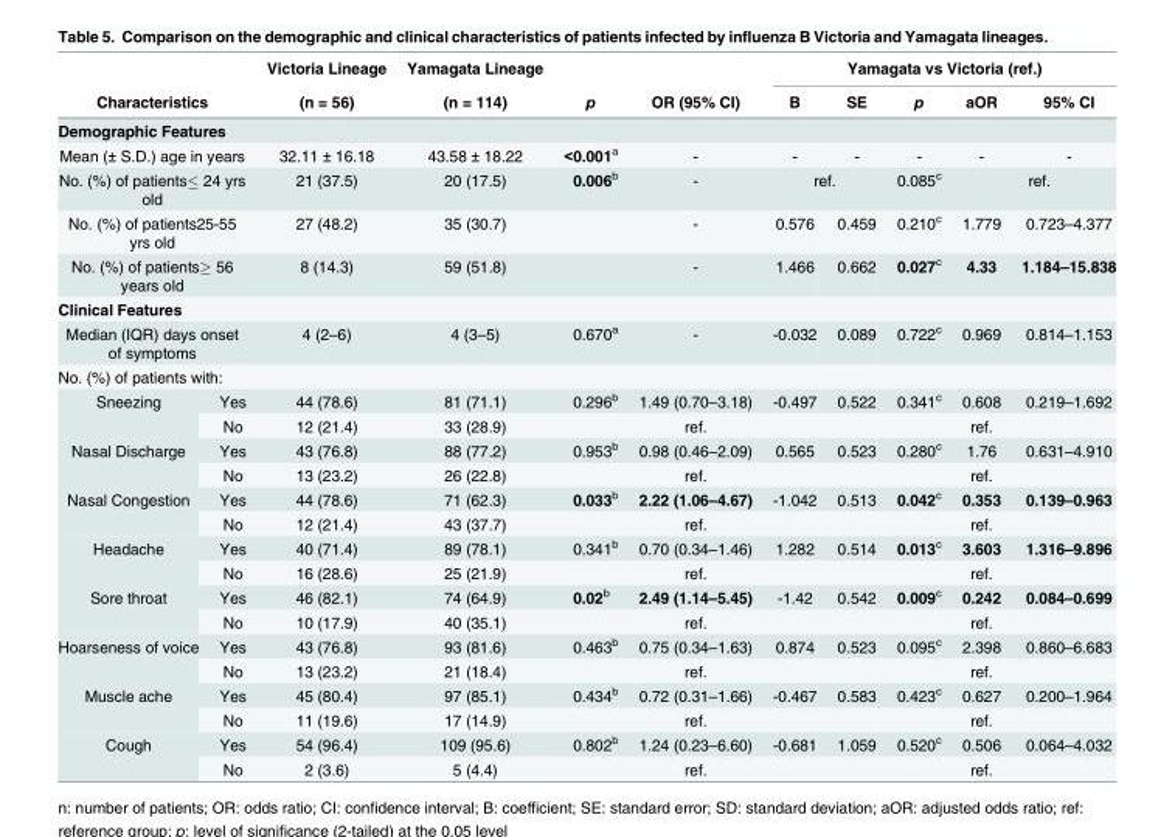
<table><thead><tr><td></td><td></td><td rowspan="2">Victoria Lineage (n = 56)</td><td rowspan="2">Yamagata Lineage (n = 114)</td><td rowspan="2">p</td><td rowspan="2">OR (95% CI)</td><td colspan="5">Yamagata vs Victoria (ref.)</td></tr><tr><td colspan="2">Characteristics</td><td>B</td><td>SE</td><td>p</td><td>aOR</td><td>95% CI</td></tr></thead><tbody><tr><td colspan="11">Demographic Features</td></tr><tr><td colspan="2">Mean (± S.D.) age in years</td><td>32.11 ± 16.18</td><td>43.58 ± 18.22</td><td>&lt;0.001<sup>a</sup></td><td>-</td><td>-</td><td>-</td><td>-</td><td>-</td><td>-</td></tr><tr><td colspan="2">No. (%) of patients≤ 24 yrs old</td><td>21 (37.5)</td><td>20 (17.5)</td><td>0.006<sup>b</sup></td><td>-</td><td colspan="2">ref.</td><td>0.085<sup>c</sup></td><td colspan="2">ref.</td></tr><tr><td colspan="2">No. (%) of patients25-55 yrs old</td><td>27 (48.2)</td><td>35 (30.7)</td><td></td><td>-</td><td>0.576</td><td>0.459</td><td>0.210<sup>c</sup></td><td>1.779</td><td>0.723–4.377</td></tr><tr><td colspan="2">No. (%) of patients≥ 56 years old</td><td>8 (14.3)</td><td>59 (51.8)</td><td></td><td>-</td><td>1.466</td><td>0.662</td><td>0.027<sup>c</sup></td><td>4.33</td><td>1.184–15.838</td></tr><tr><td colspan="11">Clinical Features</td></tr><tr><td colspan="2">Median (IQR) days onset of symptoms</td><td>4 (2–6)</td><td>4 (3–5)</td><td>0.670<sup>a</sup></td><td>-</td><td>-0.032</td><td>0.089</td><td>0.722<sup>c</sup></td><td>0.969</td><td>0.814–1.153</td></tr><tr><td colspan="11">No. (%) of patients with:</td></tr><tr><td rowspan="2">Sneezing</td><td>Yes</td><td>44 (78.6)</td><td>81 (71.1)</td><td>0.296<sup>b</sup></td><td>1.49 (0.70–3.18)</td><td>-0.497</td><td>0.522</td><td>0.341<sup>c</sup></td><td>0.608</td><td>0.219–1.692</td></tr><tr><td>No</td><td>12 (21.4)</td><td>33 (28.9)</td><td></td><td>ref.</td><td></td><td></td><td></td><td>ref.</td><td></td></tr><tr><td rowspan="2">Nasal Discharge</td><td>Yes</td><td>43 (76.8)</td><td>88 (77.2)</td><td>0.953<sup>b</sup></td><td>0.98 (0.46–2.09)</td><td>0.565</td><td>0.523</td><td>0.280<sup>c</sup></td><td>1.76</td><td>0.631–4.910</td></tr><tr><td>No</td><td>13 (23.2)</td><td>26 (22.8)</td><td></td><td>ref.</td><td></td><td></td><td></td><td>ref.</td><td></td></tr><tr><td rowspan="2">Nasal Congestion</td><td>Yes</td><td>44 (78.6)</td><td>71 (62.3)</td><td>0.033<sup>b</sup></td><td>2.22 (1.06–4.67)</td><td>-1.042</td><td>0.513</td><td>0.042<sup>c</sup></td><td>0.353</td><td>0.139–0.963</td></tr><tr><td>No</td><td>12 (21.4)</td><td>43 (37.7)</td><td></td><td>ref.</td><td></td><td></td><td></td><td>ref.</td><td></td></tr><tr><td rowspan="2">Headache</td><td>Yes</td><td>40 (71.4)</td><td>89 (78.1)</td><td>0.341<sup>b</sup></td><td>0.70 (0.34–1.46)</td><td>1.282</td><td>0.514</td><td>0.013<sup>c</sup></td><td>3.603</td><td>1.316–9.896</td></tr><tr><td>No</td><td>16 (28.6)</td><td>25 (21.9)</td><td></td><td>ref.</td><td></td><td></td><td></td><td>ref.</td><td></td></tr><tr><td rowspan="2">Sore throat</td><td>Yes</td><td>46 (82.1)</td><td>74 (64.9)</td><td>0.02<sup>b</sup></td><td>2.49 (1.14–5.45)</td><td>-1.42</td><td>0.542</td><td>0.009<sup>c</sup></td><td>0.242</td><td>0.084–0.699</td></tr><tr><td>No</td><td>10 (17.9)</td><td>40 (35.1)</td><td></td><td>ref.</td><td></td><td></td><td></td><td>ref.</td><td></td></tr><tr><td rowspan="2">Hoarseness of voice</td><td>Yes</td><td>43 (76.8)</td><td>93 (81.6)</td><td>0.463<sup>b</sup></td><td>0.75 (0.34–1.63)</td><td>0.874</td><td>0.523</td><td>0.095<sup>c</sup></td><td>2.398</td><td>0.860–6.683</td></tr><tr><td>No</td><td>13 (23.2)</td><td>21 (18.4)</td><td></td><td>ref.</td><td></td><td></td><td></td><td>ref.</td><td></td></tr><tr><td rowspan="2">Muscle ache</td><td>Yes</td><td>45 (80.4)</td><td>97 (85.1)</td><td>0.434<sup>b</sup></td><td>0.72 (0.31–1.66)</td><td>-0.467</td><td>0.583</td><td>0.423<sup>c</sup></td><td>0.627</td><td>0.200–1.964</td></tr><tr><td>No</td><td>11 (19.6)</td><td>17 (14.9)</td><td></td><td>ref.</td><td></td><td></td><td></td><td>ref.</td><td></td></tr><tr><td rowspan="2">Cough</td><td>Yes</td><td>54 (96.4)</td><td>109 (95.6)</td><td>0.802<sup>b</sup></td><td>1.24 (0.23–6.60)</td><td>-0.681</td><td>1.059</td><td>0.520<sup>c</sup></td><td>0.506</td><td>0.064–4.032</td></tr><tr><td>No</td><td>2 (3.6)</td><td>5 (4.4)</td><td></td><td>ref.</td><td></td><td></td><td></td><td>ref.</td><td></td></tr></tbody></table>